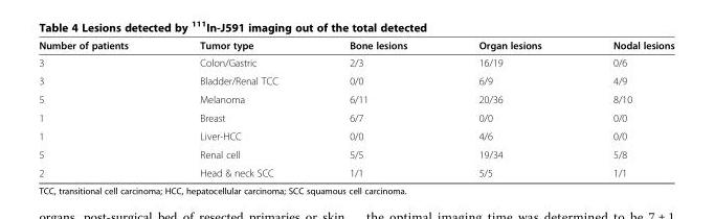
<table><thead><tr><td>Number of patients</td><td>Tumor type</td><td>Bone lesions</td><td>Organ lesions</td><td>Nodal lesions</td></tr></thead><tbody><tr><td>3</td><td>Colon/Gastric</td><td>2/3</td><td>16/19</td><td>0/6</td></tr><tr><td>3</td><td>Bladder/Renal TCC</td><td>0/0</td><td>6/9</td><td>4/9</td></tr><tr><td>5</td><td>Melanoma</td><td>6/11</td><td>20/36</td><td>8/10</td></tr><tr><td>1</td><td>Breast</td><td>6/7</td><td>0/0</td><td>0/0</td></tr><tr><td>1</td><td>Liver-HCC</td><td>0/0</td><td>4/6</td><td>0/0</td></tr><tr><td>5</td><td>Renal cell</td><td>5/5</td><td>19/34</td><td>5/8</td></tr><tr><td>2</td><td>Head &amp; neck SCC</td><td>1/1</td><td>5/5</td><td>1/1</td></tr></tbody></table>